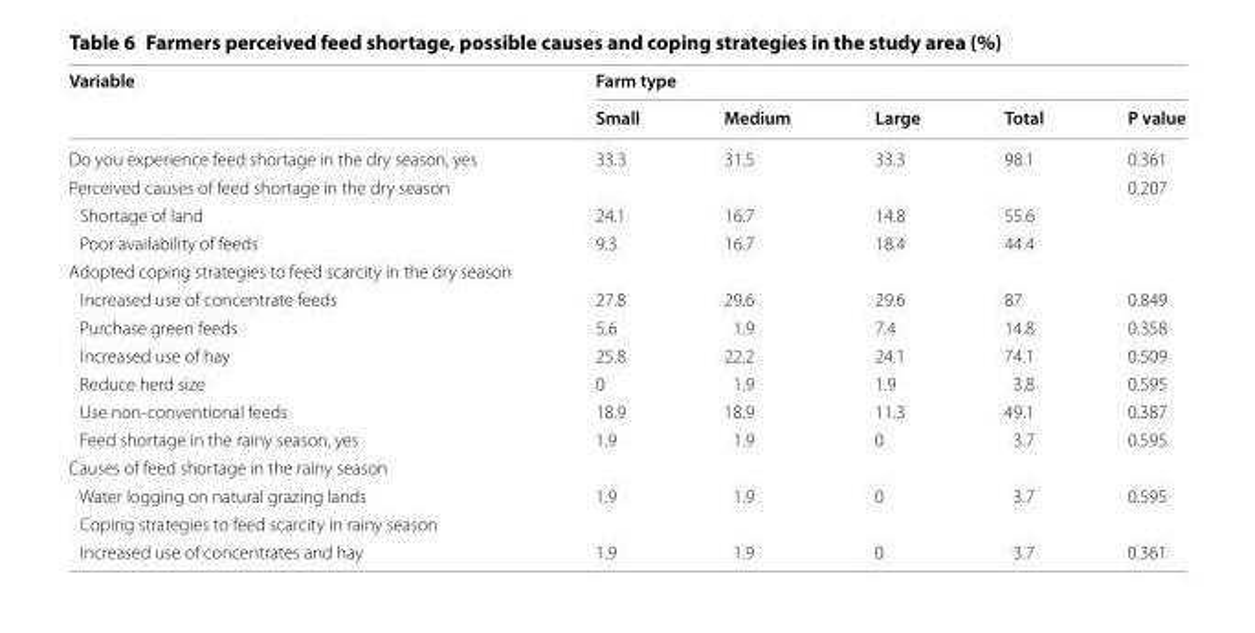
<table><thead><tr><td rowspan="2">Variable</td><td colspan="5">Farm type</td></tr><tr><td>Small</td><td>Medium</td><td>Large</td><td>Total</td><td>P value</td></tr></thead><tbody><tr><td>Do you experience feed shortage in the dry season, yes</td><td>33.3</td><td>31.5</td><td>33.3</td><td>98.1</td><td>0.361</td></tr><tr><td>Perceived causes of feed shortage in the dry season</td><td></td><td></td><td></td><td></td><td>0.207</td></tr><tr><td>Shortage of land</td><td>24.1</td><td>16.7</td><td>14.8</td><td>55.6</td><td></td></tr><tr><td>Poor availability of feeds</td><td>9.3</td><td>16.7</td><td>18.4</td><td>44.4</td><td></td></tr><tr><td colspan="6">Adopted coping strategies to feed scarcity in the dry season</td></tr><tr><td>Increased use of concentrate feeds</td><td>27.8</td><td>29.6</td><td>29.6</td><td>87</td><td>0.849</td></tr><tr><td>Purchase green feeds</td><td>5.6</td><td>1.9</td><td>7.4</td><td>14.8</td><td>0.358</td></tr><tr><td>Increased use of hay</td><td>25.8</td><td>22.2</td><td>24.1</td><td>74.1</td><td>0.509</td></tr><tr><td>Reduce herd size</td><td>0</td><td>1.9</td><td>1.9</td><td>3.8</td><td>0.595</td></tr><tr><td>Use non-conventional feeds</td><td>18.9</td><td>18.9</td><td>11.3</td><td>49.1</td><td>0.387</td></tr><tr><td>Feed shortage in the rainy season, yes</td><td>1.9</td><td>1.9</td><td>0</td><td>3.7</td><td>0.595</td></tr><tr><td colspan="6">Causes of feed shortage in the rainy season</td></tr><tr><td>Water logging on natural grazing lands</td><td>1.9</td><td>1.9</td><td>0</td><td>3.7</td><td>0.595</td></tr><tr><td colspan="6">Coping strategies to feed scarcity in rainy season</td></tr><tr><td>Increased use of concentrates and hay</td><td>1.9</td><td>1.9</td><td>0</td><td>3.7</td><td>0.361</td></tr></tbody></table>